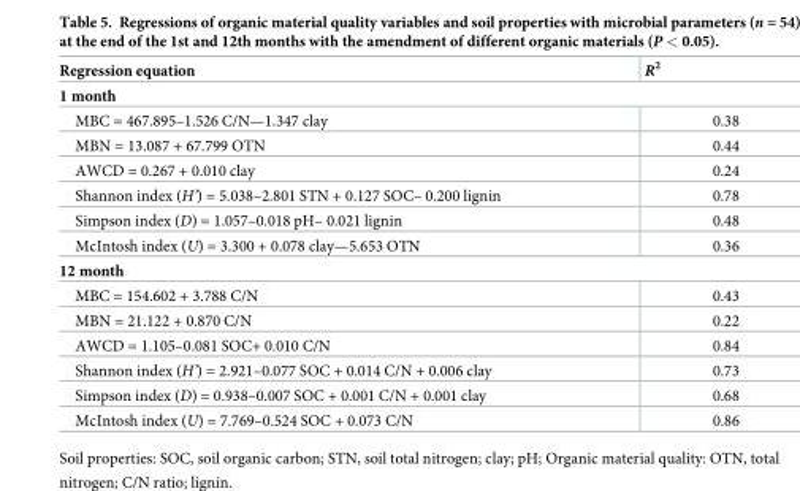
<table><thead><tr><td>Regression equation</td><td>R<sup>2</sup></td></tr></thead><tbody><tr><td colspan="2">1 month</td></tr><tr><td>MBC = 467.895–1.526 C/N—1.347 clay</td><td>0.38</td></tr><tr><td>MBN = 13.087 + 67.799 OTN</td><td>0.44</td></tr><tr><td>AWCD = 0.267 + 0.010 clay</td><td>0.24</td></tr><tr><td>Shannon index (H’) = 5.038–2.801 STN + 0.127 SOC– 0.200 lignin</td><td>0.78</td></tr><tr><td>Simpson index (D) = 1.057–0.018 pH– 0.021 lignin</td><td>0.48</td></tr><tr><td>McIntosh index (U) = 3.300 + 0.078 clay—5.653 OTN</td><td>0.36</td></tr><tr><td colspan="2">12 month</td></tr><tr><td>MBC = 154.602 + 3.788 C/N</td><td>0.43</td></tr><tr><td>MBN = 21.122 + 0.870 C/N</td><td>0.22</td></tr><tr><td>AWCD = 1.105–0.081 SOC+ 0.010 C/N</td><td>0.84</td></tr><tr><td>Shannon index (H’) = 2.921–0.077 SOC + 0.014 C/N + 0.006 clay</td><td>0.73</td></tr><tr><td>Simpson index (D) = 0.938–0.007 SOC + 0.001 C/N + 0.001 clay</td><td>0.68</td></tr><tr><td>McIntosh index (U) = 7.769–0.524 SOC + 0.073 C/N</td><td>0.86</td></tr></tbody></table>